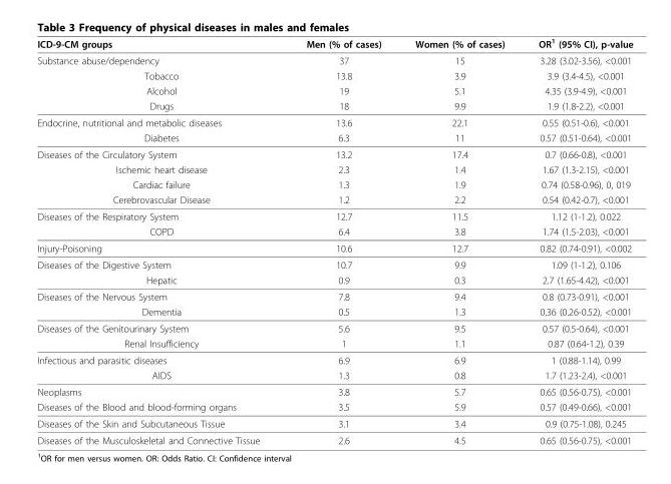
<table><thead><tr><td>ICD-9-CM groups</td><td>Men (% of cases)</td><td>Women (% of cases)</td><td>OR<sup>1</sup> (95% CI), p-value</td></tr></thead><tbody><tr><td>Substance abuse/dependency</td><td>37</td><td>15</td><td>3.28 (3.02-3.56), &lt;0.001</td></tr><tr><td>Tobacco</td><td>13.8</td><td>3.9</td><td>3.9 (3.4-4.5), &lt;0.001</td></tr><tr><td>Alcohol</td><td>19</td><td>5.1</td><td>4.35 (3.9-4.9), &lt;0.001</td></tr><tr><td>Drugs</td><td>18</td><td>9.9</td><td>1.9 (1.8-2.2), &lt;0.001</td></tr><tr><td>Endocrine, nutritional and metabolic diseases</td><td>13.6</td><td>22.1</td><td>0.55 (0.51-0.6), &lt;0.001</td></tr><tr><td>Diabetes</td><td>6.3</td><td>11</td><td>0.57 (0.51-0.64), &lt;0.001</td></tr><tr><td>Diseases of the Circulatory System</td><td>13.2</td><td>17.4</td><td>0.7 (0.66-0.8), &lt;0.001</td></tr><tr><td>Ischemic heart disease</td><td>2.3</td><td>1.4</td><td>1.67 (1.3-2.15), &lt;0.001</td></tr><tr><td>Cardiac failure</td><td>1.3</td><td>1.9</td><td>0.74 (0.58-0.96), 0, 019</td></tr><tr><td>Cerebrovascular Disease</td><td>1.2</td><td>2.2</td><td>0.54 (0.42-0.7), &lt;0.001</td></tr><tr><td>Diseases of the Respiratory System</td><td>12.7</td><td>11.5</td><td>1.12 (1-1.2), 0.022</td></tr><tr><td>COPD</td><td>6.4</td><td>3.8</td><td>1.74 (1.5-2.03), &lt;0.001</td></tr><tr><td>Injury-Poisoning</td><td>10.6</td><td>12.7</td><td>0.82 (0.74-0.91), &lt;0.002</td></tr><tr><td>Diseases of the Digestive System</td><td>10.7</td><td>9.9</td><td>1.09 (1-1.2), 0.106</td></tr><tr><td>Hepatic</td><td>0.9</td><td>0.3</td><td>2.7 (1.65-4.42), &lt;0.001</td></tr><tr><td>Diseases of the Nervous System</td><td>7.8</td><td>9.4</td><td>0.8 (0.73-0.91), &lt;0.001</td></tr><tr><td>Dementia</td><td>0.5</td><td>1.3</td><td>0.36 (0.26-0.52), &lt;0.001</td></tr><tr><td>Diseases of the Genitourinary System</td><td>5.6</td><td>9.5</td><td>0.57 (0.5-0.64), &lt;0.001</td></tr><tr><td>Renal Insufficiency</td><td>1</td><td>1.1</td><td>0.87 (0.64-1.2), 0.39</td></tr><tr><td>Infectious and parasitic diseases</td><td>6.9</td><td>6.9</td><td>1 (0.88-1.14), 0.99</td></tr><tr><td>AIDS</td><td>1.3</td><td>0.8</td><td>1.7 (1.23-2.4), &lt;0.001</td></tr><tr><td>Neoplasms</td><td>3.8</td><td>5.7</td><td>0.65 (0.56-0.75), &lt;0.001</td></tr><tr><td>Diseases of the Blood and blood-forming organs</td><td>3.5</td><td>5.9</td><td>0.57 (0.49-0.66), &lt;0.001</td></tr><tr><td>Diseases of the Skin and Subcutaneous Tissue</td><td>3.1</td><td>3.4</td><td>0.9 (0.75-1.08), 0.245</td></tr><tr><td>Diseases of the Musculoskeletal and Connective Tissue</td><td>2.6</td><td>4.5</td><td>0.65 (0.56-0.75), &lt;0.001</td></tr></tbody></table>